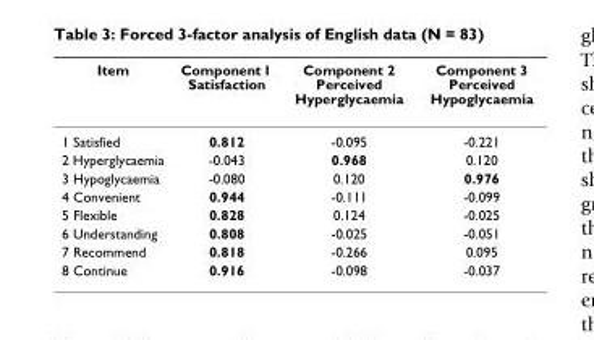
<table><thead><tr><td>Item</td><td>Component 1 Satisfaction</td><td>Component 2 Perceived Hyperglycaemia</td><td>Component 3 Perceived Hypoglycaemia</td></tr></thead><tbody><tr><td>1 Satisfied</td><td>0.812</td><td>-0.095</td><td>-0.221</td></tr><tr><td>2 Hyperglycaemia</td><td>-0.043</td><td>0.968</td><td>0.120</td></tr><tr><td>3 Hypoglycaemia</td><td>-0.080</td><td>0.120</td><td>0.976</td></tr><tr><td>4 Convenient</td><td>0.944</td><td>-0.111</td><td>-0.099</td></tr><tr><td>5 Flexible</td><td>0.828</td><td>0.124</td><td>-0.025</td></tr><tr><td>6 Understanding</td><td>0.808</td><td>-0.025</td><td>-0.051</td></tr><tr><td>7 Recommend</td><td>0.818</td><td>-0.266</td><td>0.095</td></tr><tr><td>8 Continue</td><td>0.916</td><td>-0.098</td><td>-0.037</td></tr></tbody></table>